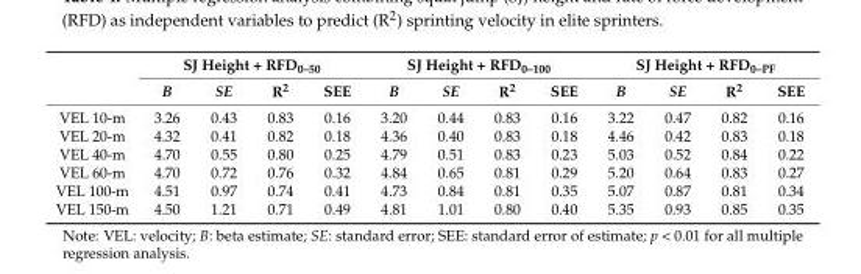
<table><thead><tr><td rowspan="2"></td><td colspan="4">SJ Height + RFD<sub>0–50</sub></td><td colspan="4">SJ Height + RFD<sub>0–100</sub></td><td colspan="4">SJ Height + RFD<sub>0–PF</sub></td></tr><tr><td>B</td><td>SE</td><td>R<sup>2</sup></td><td>SEE</td><td>B</td><td>SE</td><td>R<sup>2</sup></td><td>SEE</td><td>B</td><td>SE</td><td>R<sup>2</sup></td><td>SEE</td></tr></thead><tbody><tr><td>VEL 10-m</td><td>3.26</td><td>0.43</td><td>0.83</td><td>0.16</td><td>3.20</td><td>0.44</td><td>0.83</td><td>0.16</td><td>3.22</td><td>0.47</td><td>0.82</td><td>0.16</td></tr><tr><td>VEL 20-m</td><td>4.32</td><td>0.41</td><td>0.82</td><td>0.18</td><td>4.36</td><td>0.40</td><td>0.83</td><td>0.18</td><td>4.46</td><td>0.42</td><td>0.83</td><td>0.18</td></tr><tr><td>VEL 40-m</td><td>4.70</td><td>0.55</td><td>0.80</td><td>0.25</td><td>4.79</td><td>0.51</td><td>0.83</td><td>0.23</td><td>5.03</td><td>0.52</td><td>0.84</td><td>0.22</td></tr><tr><td>VEL 60-m</td><td>4.70</td><td>0.72</td><td>0.76</td><td>0.32</td><td>4.84</td><td>0.65</td><td>0.81</td><td>0.29</td><td>5.20</td><td>0.64</td><td>0.83</td><td>0.27</td></tr><tr><td>VEL 100-m</td><td>4.51</td><td>0.97</td><td>0.74</td><td>0.41</td><td>4.73</td><td>0.84</td><td>0.81</td><td>0.35</td><td>5.07</td><td>0.87</td><td>0.81</td><td>0.34</td></tr><tr><td>VEL 150-m</td><td>4.50</td><td>1.21</td><td>0.71</td><td>0.49</td><td>4.81</td><td>1.01</td><td>0.80</td><td>0.40</td><td>5.35</td><td>0.93</td><td>0.85</td><td>0.35</td></tr></tbody></table>